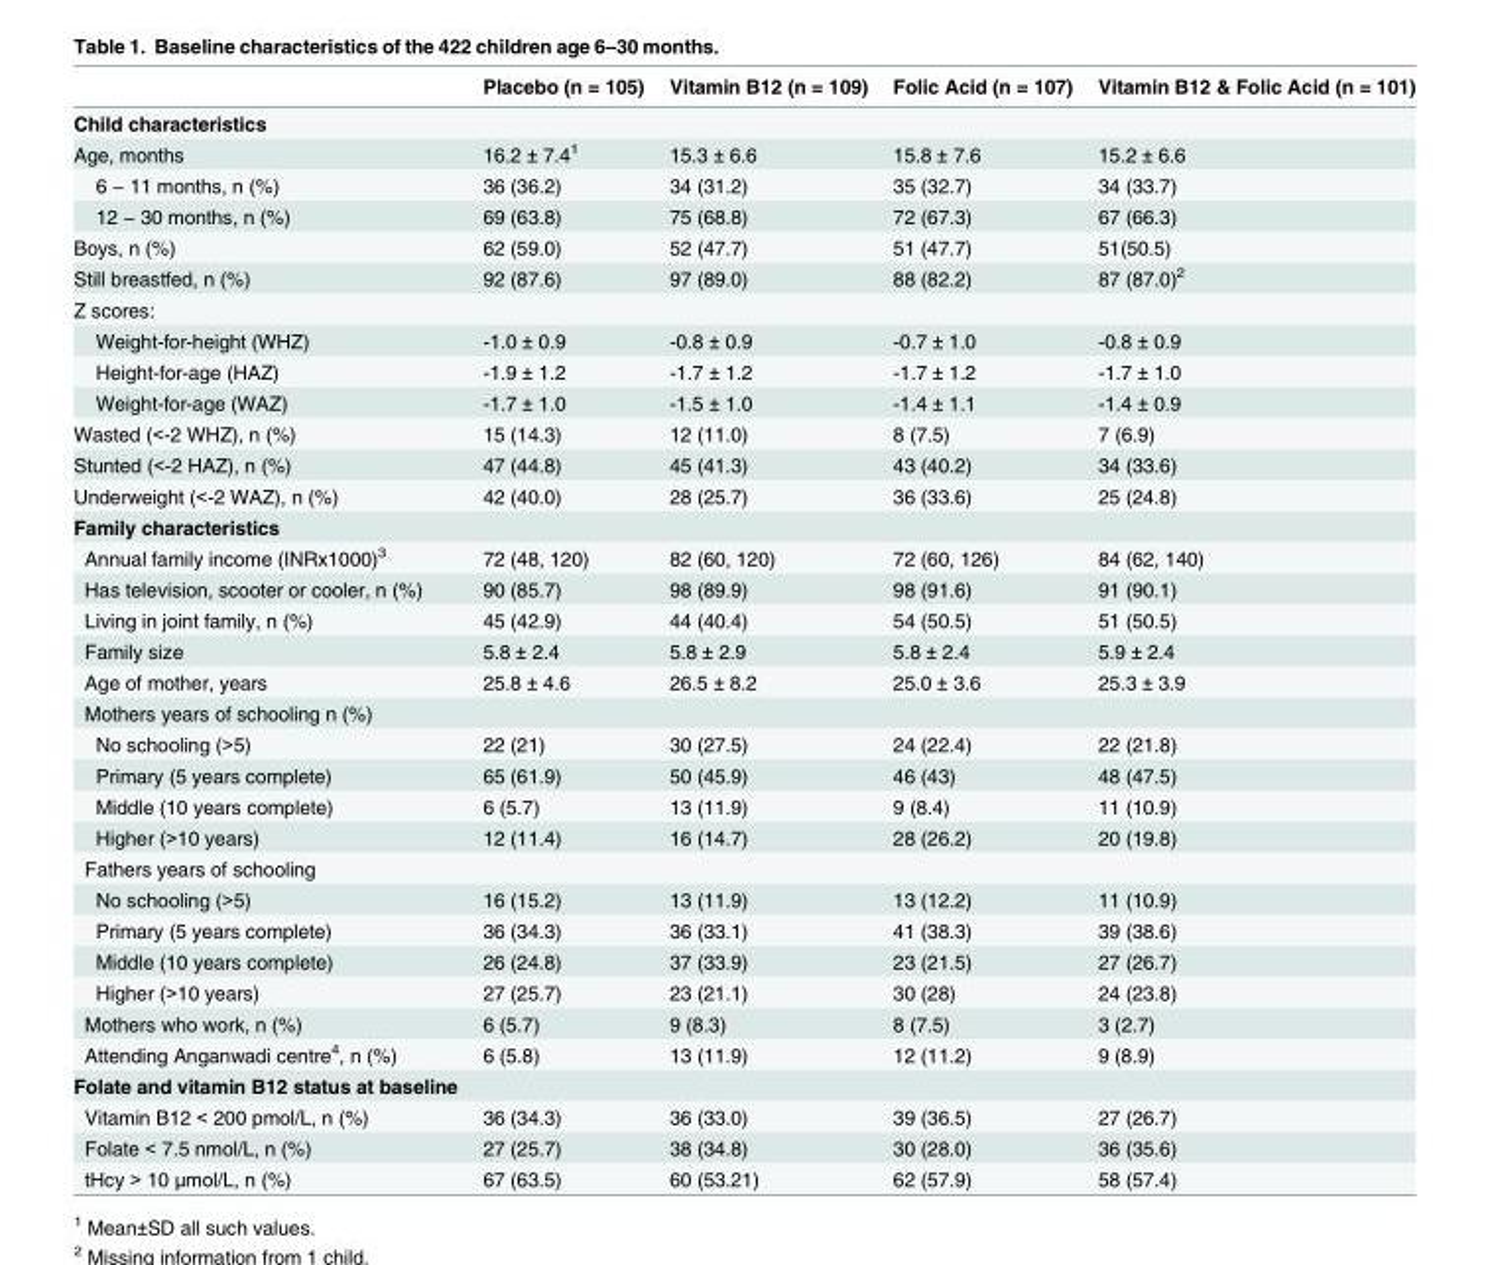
<table><thead><tr><td></td><td>Placebo (n = 105)</td><td>Vitamin B12 (n = 109)</td><td>Folic Acid (n = 107)</td><td>Vitamin B12 &amp; Folic Acid (n = 101)</td></tr></thead><tbody><tr><td colspan="5">Child characteristics</td></tr><tr><td>Age, months</td><td>16.2 ± 7.4<sup>1</sup></td><td>15.3 ± 6.6</td><td>15.8 ± 7.6</td><td>15.2 ± 6.6</td></tr><tr><td>6 − 11 months, n (%)</td><td>36 (36.2)</td><td>34 (31.2)</td><td>35 (32.7)</td><td>34 (33.7)</td></tr><tr><td>12 − 30 months, n (%)</td><td>69 (63.8)</td><td>75 (68.8)</td><td>72 (67.3)</td><td>67 (66.3)</td></tr><tr><td>Boys, n (%)</td><td>62 (59.0)</td><td>52 (47.7)</td><td>51 (47.7)</td><td>51(50.5)</td></tr><tr><td>Still breastfed, n (%)</td><td>92 (87.6)</td><td>97 (89.0)</td><td>88 (82.2)</td><td>87 (87.0)<sup>2</sup></td></tr><tr><td colspan="5">Z scores:</td></tr><tr><td>Weight-for-height (WHZ)</td><td>-1.0 ± 0.9</td><td>-0.8 ± 0.9</td><td>-0.7 ± 1.0</td><td>-0.8 ± 0.9</td></tr><tr><td>Height-for-age (HAZ)</td><td>-1.9 ± 1.2</td><td>-1.7 ± 1.2</td><td>-1.7 ± 1.2</td><td>-1.7 ± 1.0</td></tr><tr><td>Weight-for-age (WAZ)</td><td>-1.7 ± 1.0</td><td>-1.5 ± 1.0</td><td>-1.4 ± 1.1</td><td>-1.4 ± 0.9</td></tr><tr><td>Wasted (&lt;-2 WHZ), n (%)</td><td>15 (14.3)</td><td>12 (11.0)</td><td>8 (7.5)</td><td>7 (6.9)</td></tr><tr><td>Stunted (&lt;-2 HAZ), n (%)</td><td>47 (44.8)</td><td>45 (41.3)</td><td>43 (40.2)</td><td>34 (33.6)</td></tr><tr><td>Underweight (&lt;-2 WAZ), n (%)</td><td>42 (40.0)</td><td>28 (25.7)</td><td>36 (33.6)</td><td>25 (24.8)</td></tr><tr><td colspan="5">Family characteristics</td></tr><tr><td>Annual family income (INRx1000)<sup>3</sup></td><td>72 (48, 120)</td><td>82 (60, 120)</td><td>72 (60, 126)</td><td>84 (62, 140)</td></tr><tr><td>Has television, scooter or cooler, n (%)</td><td>90 (85.7)</td><td>98 (89.9)</td><td>98 (91.6)</td><td>91 (90.1)</td></tr><tr><td>Living in joint family, n (%)</td><td>45 (42.9)</td><td>44 (40.4)</td><td>54 (50.5)</td><td>51 (50.5)</td></tr><tr><td>Family size</td><td>5.8 ± 2.4</td><td>5.8 ± 2.9</td><td>5.8 ± 2.4</td><td>5.9 ± 2.4</td></tr><tr><td>Age of mother, years</td><td>25.8 ± 4.6</td><td>26.5 ± 8.2</td><td>25.0 ± 3.6</td><td>25.3 ± 3.9</td></tr><tr><td colspan="5">Mothers years of schooling n (%)</td></tr><tr><td>No schooling (&gt;5)</td><td>22 (21)</td><td>30 (27.5)</td><td>24 (22.4)</td><td>22 (21.8)</td></tr><tr><td>Primary (5 years complete)</td><td>65 (61.9)</td><td>50 (45.9)</td><td>46 (43)</td><td>48 (47.5)</td></tr><tr><td>Middle (10 years complete)</td><td>6 (5.7)</td><td>13 (11.9)</td><td>9 (8.4)</td><td>11 (10.9)</td></tr><tr><td>Higher (&gt;10 years)</td><td>12 (11.4)</td><td>16 (14.7)</td><td>28 (26.2)</td><td>20 (19.8)</td></tr><tr><td colspan="5">Fathers years of schooling</td></tr><tr><td>No schooling (&gt;5)</td><td>16 (15.2)</td><td>13 (11.9)</td><td>13 (12.2)</td><td>11 (10.9)</td></tr><tr><td>Primary (5 years complete)</td><td>36 (34.3)</td><td>36 (33.1)</td><td>41 (38.3)</td><td>39 (38.6)</td></tr><tr><td>Middle (10 years complete)</td><td>26 (24.8)</td><td>37 (33.9)</td><td>23 (21.5)</td><td>27 (26.7)</td></tr><tr><td>Higher (&gt;10 years)</td><td>27 (25.7)</td><td>23 (21.1)</td><td>30 (28)</td><td>24 (23.8)</td></tr><tr><td>Mothers who work, n (%)</td><td>6 (5.7)</td><td>9 (8.3)</td><td>8 (7.5)</td><td>3 (2.7)</td></tr><tr><td>Attending Anganwadi centre<sup>4</sup>, n (%)</td><td>6 (5.8)</td><td>13 (11.9)</td><td>12 (11.2)</td><td>9 (8.9)</td></tr><tr><td colspan="5">Folate and vitamin B12 status at baseline</td></tr><tr><td>Vitamin B12 &lt; 200 pmol/L, n (%)</td><td>36 (34.3)</td><td>36 (33.0)</td><td>39 (36.5)</td><td>27 (26.7)</td></tr><tr><td>Folate &lt; 7.5 nmol/L, n (%)</td><td>27 (25.7)</td><td>38 (34.8)</td><td>30 (28.0)</td><td>36 (35.6)</td></tr><tr><td>tHcy &gt; 10 μmol/L, n (%)</td><td>67 (63.5)</td><td>60 (53.21)</td><td>62 (57.9)</td><td>58 (57.4)</td></tr></tbody></table>